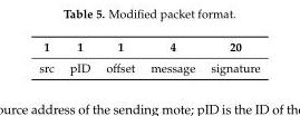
<table><thead><tr><td>1</td><td>1</td><td>1</td><td>4</td><td>20</td></tr></thead><tbody><tr><td>src</td><td>pID</td><td>offset</td><td>message</td><td>signature</td></tr></tbody></table>